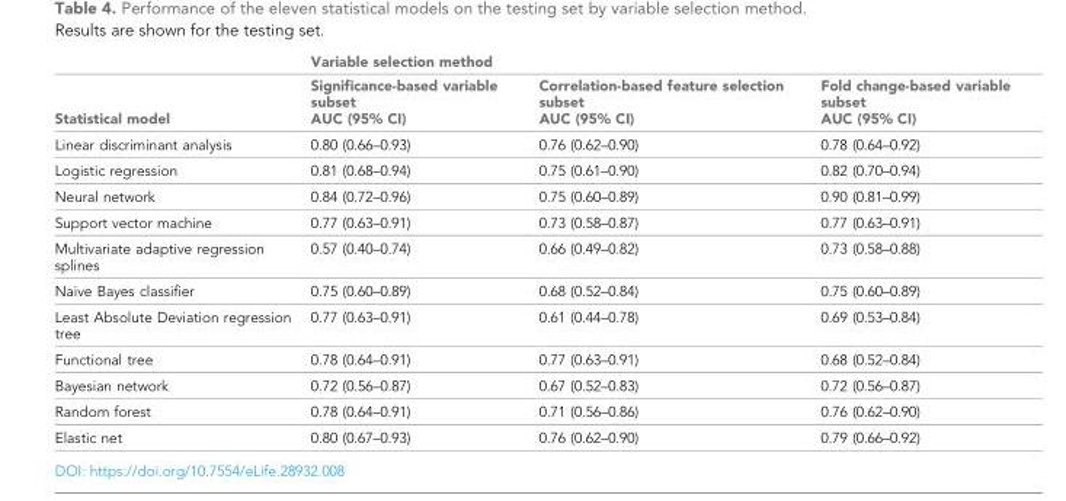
<table><thead><tr><td rowspan="2">Statistical model</td><td colspan="3">Variable selection method</td></tr><tr><td>Significance-based variable subset AUC (95% CI)</td><td>Correlation-based feature selection subset AUC (95% CI)</td><td>Fold change-based variable subset AUC (95% CI)</td></tr></thead><tbody><tr><td>Linear discriminant analysis</td><td>0.80 (0.66–0.93)</td><td>0.76 (0.62–0.90)</td><td>0.78 (0.64–0.92)</td></tr><tr><td>Logistic regression</td><td>0.81 (0.68–0.94)</td><td>0.75 (0.61–0.90)</td><td>0.82 (0.70–0.94)</td></tr><tr><td>Neural network</td><td>0.84 (0.72–0.96)</td><td>0.75 (0.60–0.89)</td><td>0.90 (0.81–0.99)</td></tr><tr><td>Support vector machine</td><td>0.77 (0.63–0.91)</td><td>0.73 (0.58–0.87)</td><td>0.77 (0.63–0.91)</td></tr><tr><td>Multivariate adaptive regression splines</td><td>0.57 (0.40–0.74)</td><td>0.66 (0.49–0.82)</td><td>0.73 (0.58–0.88)</td></tr><tr><td>Naive Bayes classifier</td><td>0.75 (0.60–0.89)</td><td>0.68 (0.52–0.84)</td><td>0.75 (0.60–0.89)</td></tr><tr><td>Least Absolute Deviation regression tree</td><td>0.77 (0.63–0.91)</td><td>0.61 (0.44–0.78)</td><td>0.69 (0.53–0.84)</td></tr><tr><td>Functional tree</td><td>0.78 (0.64–0.91)</td><td>0.77 (0.63–0.91)</td><td>0.68 (0.52–0.84)</td></tr><tr><td>Bayesian network</td><td>0.72 (0.56–0.87)</td><td>0.67 (0.52–0.83)</td><td>0.72 (0.56–0.87)</td></tr><tr><td>Random forest</td><td>0.78 (0.64–0.91)</td><td>0.71 (0.56–0.86)</td><td>0.76 (0.62–0.90)</td></tr><tr><td>Elastic net</td><td>0.80 (0.67–0.93)</td><td>0.76 (0.62–0.90)</td><td>0.79 (0.66–0.92)</td></tr></tbody></table>